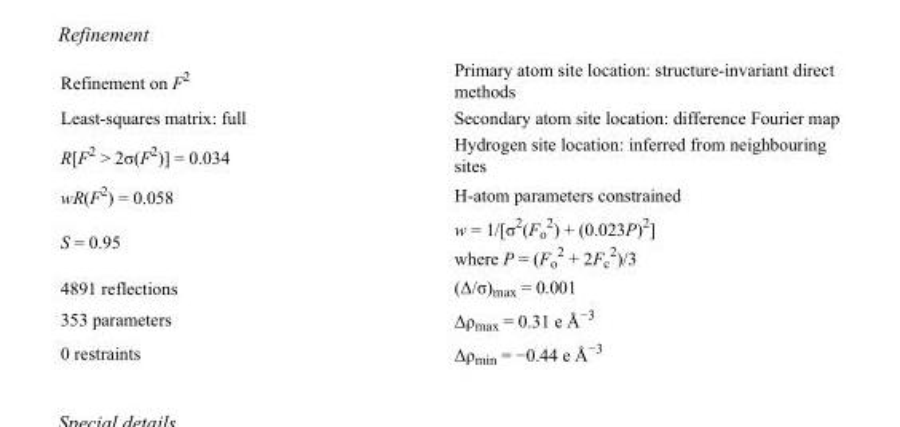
<table><tbody><tr><td>Refinement on F<sup>2</sup></td><td>Primary atom site location: structure-invariant direct methods</td></tr><tr><td>Least-squares matrix: full</td><td>Secondary atom site location: difference Fourier map</td></tr><tr><td>R[F<sup>2</sup> &gt; 2σ(F<sup>2</sup>)] = 0.034</td><td>Hydrogen site location: inferred from neighbouring sites</td></tr><tr><td>wR(F<sup>2</sup>) = 0.058</td><td>H-atom parameters constrained</td></tr><tr><td>S = 0.95</td><td>w = 1/[σ<sup>2</sup>(F<sub>o</sub> <sup>2</sup>) + (0.023P)<sup>2</sup>] where P = (F<sub>o</sub> <sup>2</sup> + 2F<sub>c</sub> <sup>2</sup>)/3</td></tr><tr><td>4891 reflections</td><td>(Δ/σ)<sub>max</sub> = 0.001</td></tr><tr><td>353 parameters</td><td>Δρ<sub>max</sub> = 0.31 e Å<sup>−3</sup></td></tr><tr><td>0 restraints</td><td>Δρ<sub>min</sub> = −0.44 e Å<sup>−3</sup></td></tr></tbody></table>